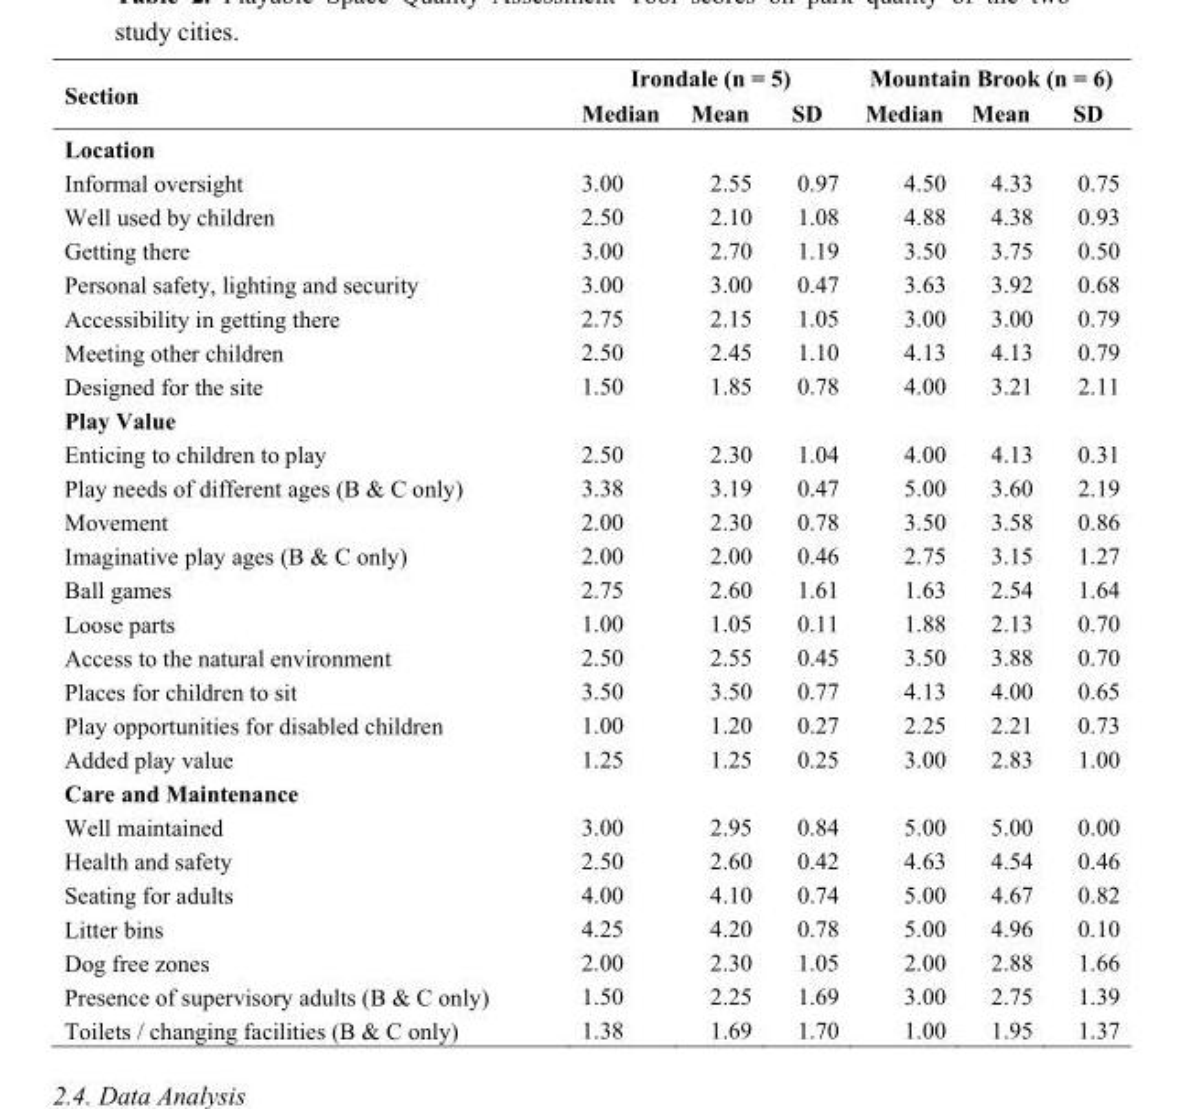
<table><thead><tr><td rowspan="2">Section</td><td colspan="3">Irondale (n = 5)</td><td colspan="3">Mountain Brook (n = 6)</td></tr><tr><td>Median</td><td>Mean</td><td>SD</td><td>Median</td><td>Mean</td><td>SD</td></tr></thead><tbody><tr><td colspan="7">Location</td></tr><tr><td>Informal oversight</td><td>3.00</td><td>2.55</td><td>0.97</td><td>4.50</td><td>4.33</td><td>0.75</td></tr><tr><td>Well used by children</td><td>2.50</td><td>2.10</td><td>1.08</td><td>4.88</td><td>4.38</td><td>0.93</td></tr><tr><td>Getting there</td><td>3.00</td><td>2.70</td><td>1.19</td><td>3.50</td><td>3.75</td><td>0.50</td></tr><tr><td>Personal safety, lighting and security</td><td>3.00</td><td>3.00</td><td>0.47</td><td>3.63</td><td>3.92</td><td>0.68</td></tr><tr><td>Accessibility in getting there</td><td>2.75</td><td>2.15</td><td>1.05</td><td>3.00</td><td>3.00</td><td>0.79</td></tr><tr><td>Meeting other children</td><td>2.50</td><td>2.45</td><td>1.10</td><td>4.13</td><td>4.13</td><td>0.79</td></tr><tr><td>Designed for the site</td><td>1.50</td><td>1.85</td><td>0.78</td><td>4.00</td><td>3.21</td><td>2.11</td></tr><tr><td colspan="7">Play Value</td></tr><tr><td>Enticing to children to play</td><td>2.50</td><td>2.30</td><td>1.04</td><td>4.00</td><td>4.13</td><td>0.31</td></tr><tr><td>Play needs of different ages (B &amp; C only)</td><td>3.38</td><td>3.19</td><td>0.47</td><td>5.00</td><td>3.60</td><td>2.19</td></tr><tr><td>Movement</td><td>2.00</td><td>2.30</td><td>0.78</td><td>3.50</td><td>3.58</td><td>0.86</td></tr><tr><td>Imaginative play ages (B &amp; C only)</td><td>2.00</td><td>2.00</td><td>0.46</td><td>2.75</td><td>3.15</td><td>1.27</td></tr><tr><td>Ball games</td><td>2.75</td><td>2.60</td><td>1.61</td><td>1.63</td><td>2.54</td><td>1.64</td></tr><tr><td>Loose parts</td><td>1.00</td><td>1.05</td><td>0.11</td><td>1.88</td><td>2.13</td><td>0.70</td></tr><tr><td>Access to the natural environment</td><td>2.50</td><td>2.55</td><td>0.45</td><td>3.50</td><td>3.88</td><td>0.70</td></tr><tr><td>Places for children to sit</td><td>3.50</td><td>3.50</td><td>0.77</td><td>4.13</td><td>4.00</td><td>0.65</td></tr><tr><td>Play opportunities for disabled children</td><td>1.00</td><td>1.20</td><td>0.27</td><td>2.25</td><td>2.21</td><td>0.73</td></tr><tr><td>Added play value</td><td>1.25</td><td>1.25</td><td>0.25</td><td>3.00</td><td>2.83</td><td>1.00</td></tr><tr><td colspan="7">Care and Maintenance</td></tr><tr><td>Well maintained</td><td>3.00</td><td>2.95</td><td>0.84</td><td>5.00</td><td>5.00</td><td>0.00</td></tr><tr><td>Health and safety</td><td>2.50</td><td>2.60</td><td>0.42</td><td>4.63</td><td>4.54</td><td>0.46</td></tr><tr><td>Seating for adults</td><td>4.00</td><td>4.10</td><td>0.74</td><td>5.00</td><td>4.67</td><td>0.82</td></tr><tr><td>Litter bins</td><td>4.25</td><td>4.20</td><td>0.78</td><td>5.00</td><td>4.96</td><td>0.10</td></tr><tr><td>Dog free zones</td><td>2.00</td><td>2.30</td><td>1.05</td><td>2.00</td><td>2.88</td><td>1.66</td></tr><tr><td>Presence of supervisory adults (B &amp; C only)</td><td>1.50</td><td>2.25</td><td>1.69</td><td>3.00</td><td>2.75</td><td>1.39</td></tr><tr><td>Toilets / changing facilities (B &amp; C only)</td><td>1.38</td><td>1.69</td><td>1.70</td><td>1.00</td><td>1.95</td><td>1.37</td></tr></tbody></table>